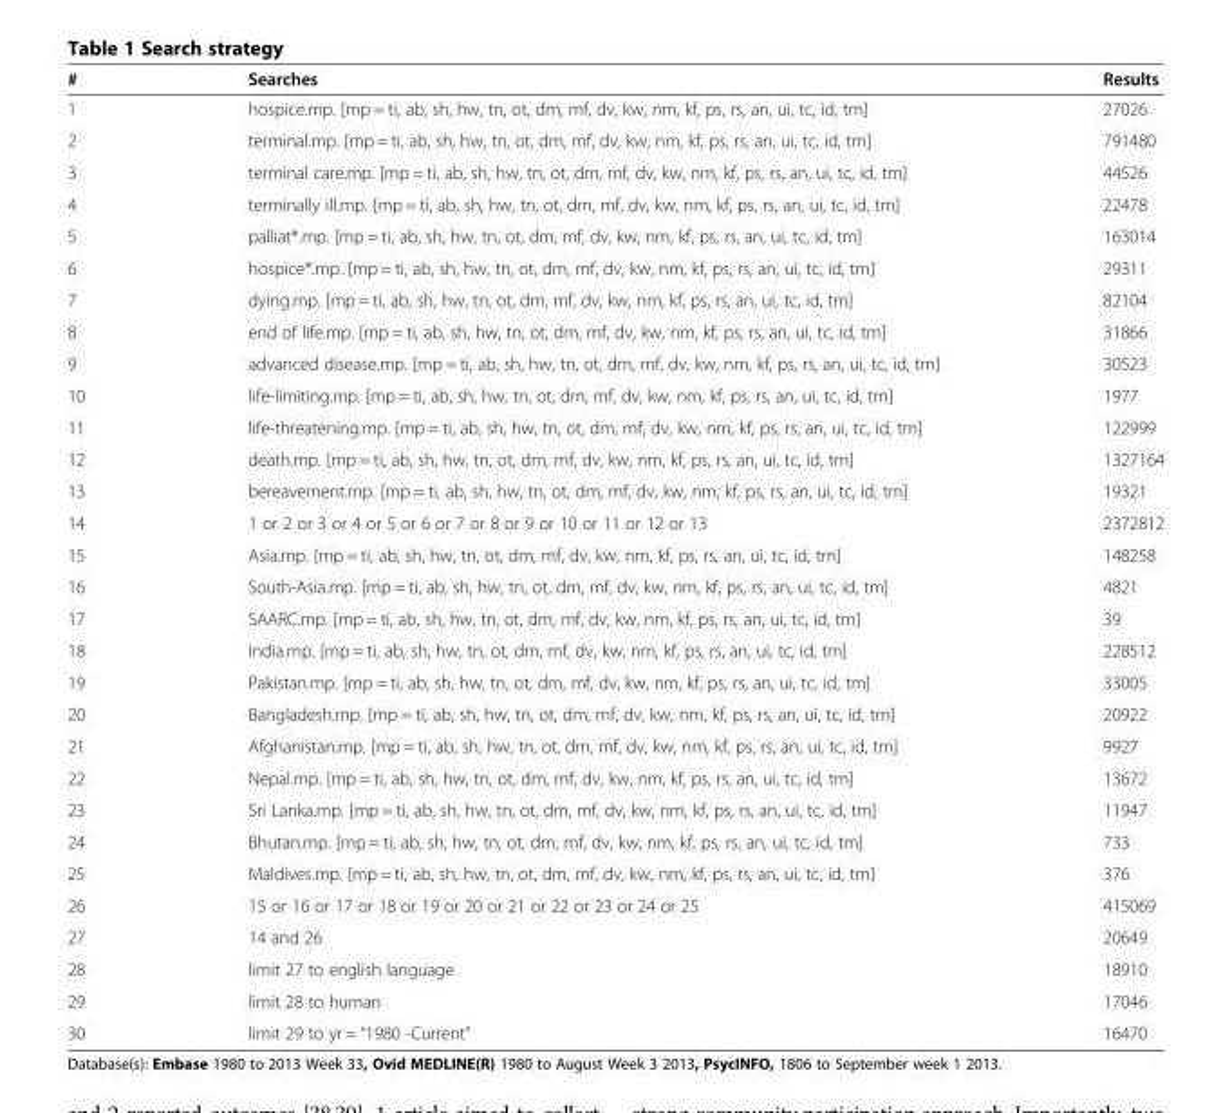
<table><thead><tr><td>#</td><td>Searches</td><td>Results</td></tr></thead><tbody><tr><td>1</td><td>hospice.mp. [mp = ti, ab, sh, hw, tn, ot, dm, mf, dv, kw, nm, kf, ps, rs, an, ui, tc, id, tm]</td><td>27026</td></tr><tr><td>2</td><td>terminal.mp. [mp = ti, ab, sh, hw, tn, ot, dm, mf, dv, kw, nm, kf, ps, rs, an, ui, tc, id, tm]</td><td>791480</td></tr><tr><td>3</td><td>terminal care.mp. [mp = ti, ab, sh, hw, tn, ot, dm, mf, dv, kw, nm, kf, ps, rs, an, ui, tc, id, tm]</td><td>44526</td></tr><tr><td>4</td><td>terminally ill.mp. [mp = ti, ab, sh, hw, tn, ot, dm, mf, dv, kw, nm, kf, ps, rs, an, ui, tc, id, tm]</td><td>22478</td></tr><tr><td>5</td><td>palliat*.mp. [mp = ti, ab, sh, hw, tn, ot, dm, mf, dv, kw, nm, kf, ps, rs, an, ui, tc, id, tm]</td><td>163014</td></tr><tr><td>6</td><td>hospice*.mp. [mp = ti, ab, sh, hw, tn, ot, dm, mf, dv, kw, nm, kf, ps, rs, an, ui, tc, id, tm]</td><td>29311</td></tr><tr><td>7</td><td>dying.mp. [mp = ti, ab, sh, hw, tn, ot, dm, mf, dv, kw, nm, kf, ps, rs, an, ui, tc, id, tm]</td><td>82104</td></tr><tr><td>8</td><td>end of life.mp. [mp = ti, ab, sh, hw, tn, ot, dm, mf, dv, kw, nm, kf, ps, rs, an, ui, tc, id, tm]</td><td>31866</td></tr><tr><td>9</td><td>advanced disease.mp. [mp = ti, ab, sh, hw, tn, ot, dm, mf, dv, kw, nm, kf, ps, rs, an, ui, tc, id, tm]</td><td>30523</td></tr><tr><td>10</td><td>life-limiting.mp. [mp = ti, ab, sh, hw, tn, ot, dm, mf, dv, kw, nm, kf, ps, rs, an, ui, tc, id, tm]</td><td>1977</td></tr><tr><td>11</td><td>life-threatening.mp. [mp = ti, ab, sh, hw, tn, ot, dm, mf, dv, kw, nm, kf, ps, rs, an, ui, tc, id, tm]</td><td>122999</td></tr><tr><td>12</td><td>death.mp. [mp = ti, ab, sh, hw, tn, ot, dm, mf, dv, kw, nm, kf, ps, rs, an, ui, tc, id, tm]</td><td>1327164</td></tr><tr><td>13</td><td>bereavement.mp. [mp = ti, ab, sh, hw, tn, ot, dm, mf, dv, kw, nm, kf, ps, rs, an, ui, tc, id, tm]</td><td>19321</td></tr><tr><td>14</td><td>1 or 2 or 3 or 4 or 5 or 6 or 7 or 8 or 9 or 10 or 11 or 12 or 13</td><td>2372812</td></tr><tr><td>15</td><td>Asia.mp. [mp = ti, ab, sh, hw, tn, ot, dm, mf, dv, kw, nm, kf, ps, rs, an, ui, tc, id, tm]</td><td>148258</td></tr><tr><td>16</td><td>South-Asia.mp. [mp = ti, ab, sh, hw, tn, ot, dm, mf, dv, kw, nm, kf, ps, rs, an, ui, tc, id, tm]</td><td>4821</td></tr><tr><td>17</td><td>SAARC.mp. [mp = ti, ab, sh, hw, tn, ot, dm, mf, dv, kw, nm, kf, ps, rs, an, ui, tc, id, tm]</td><td>39</td></tr><tr><td>18</td><td>India.mp. [mp = ti, ab, sh, hw, tn, ot, dm, mf, dv, kw, nm, kf, ps, rs, an, ui, tc, id, tm]</td><td>228512</td></tr><tr><td>19</td><td>Pakistan.mp. [mp = ti, ab, sh, hw, tn, ot, dm, mf, dv, kw, nm, kf, ps, rs, an, ui, tc, id, tm]</td><td>33005</td></tr><tr><td>20</td><td>Bangladesh.mp. [mp = ti, ab, sh, hw, tn, ot, dm, mf, dv, kw, nm, kf, ps, rs, an, ui, tc, id, tm]</td><td>20922</td></tr><tr><td>21</td><td>Afghanistan.mp. [mp = ti, ab, sh, hw, tn, ot, dm, mf, dv, kw, nm, kf, ps, rs, an, ui, tc, id, tm]</td><td>9927</td></tr><tr><td>22</td><td>Nepal.mp. [mp = ti, ab, sh, hw, tn, ot, dm, mf, dv, kw, nm, kf, ps, rs, an, ui, tc, id, tm]</td><td>13672</td></tr><tr><td>23</td><td>Sri Lanka.mp. [mp = ti, ab, sh, hw, tn, ot, dm, mf, dv, kw, nm, kf, ps, rs, an, ui, tc, id, tm]</td><td>11947</td></tr><tr><td>24</td><td>Bhutan.mp. [mp = ti, ab, sh, hw, tn, ot, dm, mf, dv, kw, nm, kf, ps, rs, an, ui, tc, id, tm]</td><td>733</td></tr><tr><td>25</td><td>Maldives.mp. [mp = ti, ab, sh, hw, tn, ot, dm, mf, dv, kw, nm, kf, ps, rs, an, ui, tc, id, tm]</td><td>376</td></tr><tr><td>26</td><td>15 or 16 or 17 or 18 or 19 or 20 or 21 or 22 or 23 or 24 or 25</td><td>415069</td></tr><tr><td>27</td><td>14 and 26</td><td>20649</td></tr><tr><td>28</td><td>limit 27 to english language</td><td>18910</td></tr><tr><td>29</td><td>limit 28 to human</td><td>17046</td></tr><tr><td>30</td><td>limit 29 to yr = “1980 -Current”</td><td>16470</td></tr></tbody></table>